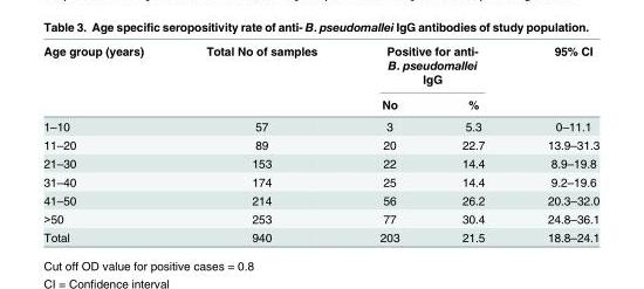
<table><thead><tr><td rowspan="2">Age group (years)</td><td rowspan="2">Total No of samples</td><td colspan="2">Positive for anti- B. pseudomallei IgG</td><td rowspan="2">95% CI</td></tr><tr><td>No</td><td>%</td></tr></thead><tbody><tr><td>1–10</td><td>57</td><td>3</td><td>5.3</td><td>0–11.1</td></tr><tr><td>11–20</td><td>89</td><td>20</td><td>22.7</td><td>13.9–31.3</td></tr><tr><td>21–30</td><td>153</td><td>22</td><td>14.4</td><td>8.9–19.8</td></tr><tr><td>31–40</td><td>174</td><td>25</td><td>14.4</td><td>9.2–19.6</td></tr><tr><td>41–50</td><td>214</td><td>56</td><td>26.2</td><td>20.3–32.0</td></tr><tr><td>&gt;50</td><td>253</td><td>77</td><td>30.4</td><td>24.8–36.1</td></tr><tr><td>Total</td><td>940</td><td>203</td><td>21.5</td><td>18.8–24.1</td></tr></tbody></table>